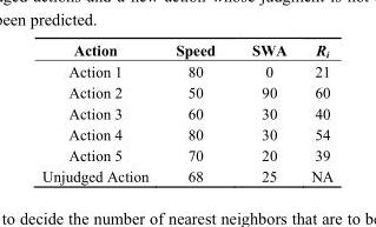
<table><thead><tr><td>Action</td><td>Speed</td><td>SWA</td><td>R<sub>i</sub></td></tr></thead><tbody><tr><td>Action 1</td><td>80</td><td>0</td><td>21</td></tr><tr><td>Action 2</td><td>50</td><td>90</td><td>60</td></tr><tr><td>Action 3</td><td>60</td><td>30</td><td>40</td></tr><tr><td>Action 4</td><td>80</td><td>30</td><td>54</td></tr><tr><td>Action 5</td><td>70</td><td>20</td><td>39</td></tr><tr><td>Unjudged Action</td><td>68</td><td>25</td><td>NA</td></tr></tbody></table>